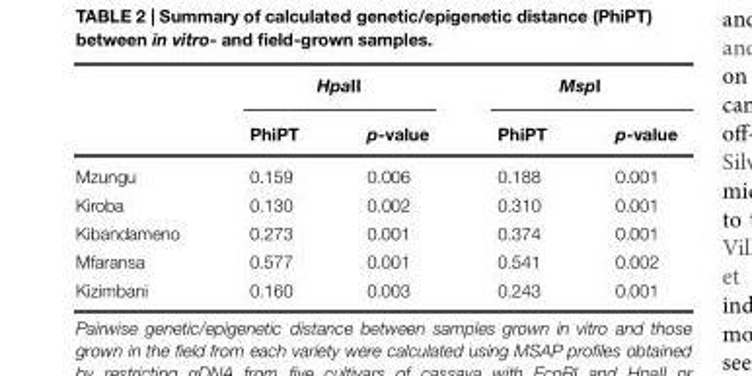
<table><thead><tr><td rowspan="2"></td><td colspan="2">HpaII</td><td colspan="2">MspI</td></tr><tr><td>PhiPT</td><td>p-value</td><td>PhiPT</td><td>p-value</td></tr></thead><tbody><tr><td>Mzungu</td><td>0.159</td><td>0.006</td><td>0.188</td><td>0.001</td></tr><tr><td>Kiroba</td><td>0.130</td><td>0.002</td><td>0.310</td><td>0.001</td></tr><tr><td>Kibandameno</td><td>0.273</td><td>0.001</td><td>0.374</td><td>0.001</td></tr><tr><td>Mfaransa</td><td>0.577</td><td>0.001</td><td>0.541</td><td>0.002</td></tr><tr><td>Kizimbani</td><td>0.160</td><td>0.003</td><td>0.243</td><td>0.001</td></tr></tbody></table>